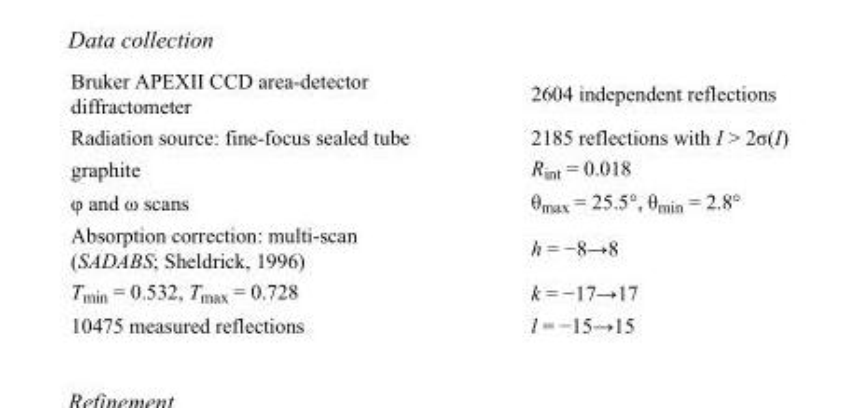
<table><tbody><tr><td>Bruker APEXII CCD area-detector diffractometer</td><td>2604 independent reflections</td></tr><tr><td>Radiation source: fine-focus sealed tube</td><td>2185 reflections with I &gt; 2σ(I)</td></tr><tr><td>graphite</td><td>R<sub>int</sub> = 0.018</td></tr><tr><td>φ and ω scans</td><td>θ<sub>max</sub> = 25.5°, θ<sub>min</sub> = 2.8°</td></tr><tr><td>Absorption correction: multi-scan (SADABS; Sheldrick, 1996)</td><td>h = −8→8</td></tr><tr><td>T<sub>min</sub> = 0.532, T<sub>max</sub> = 0.728</td><td>k = −17→17</td></tr><tr><td>10475 measured reflections</td><td>l = −15→15</td></tr></tbody></table>